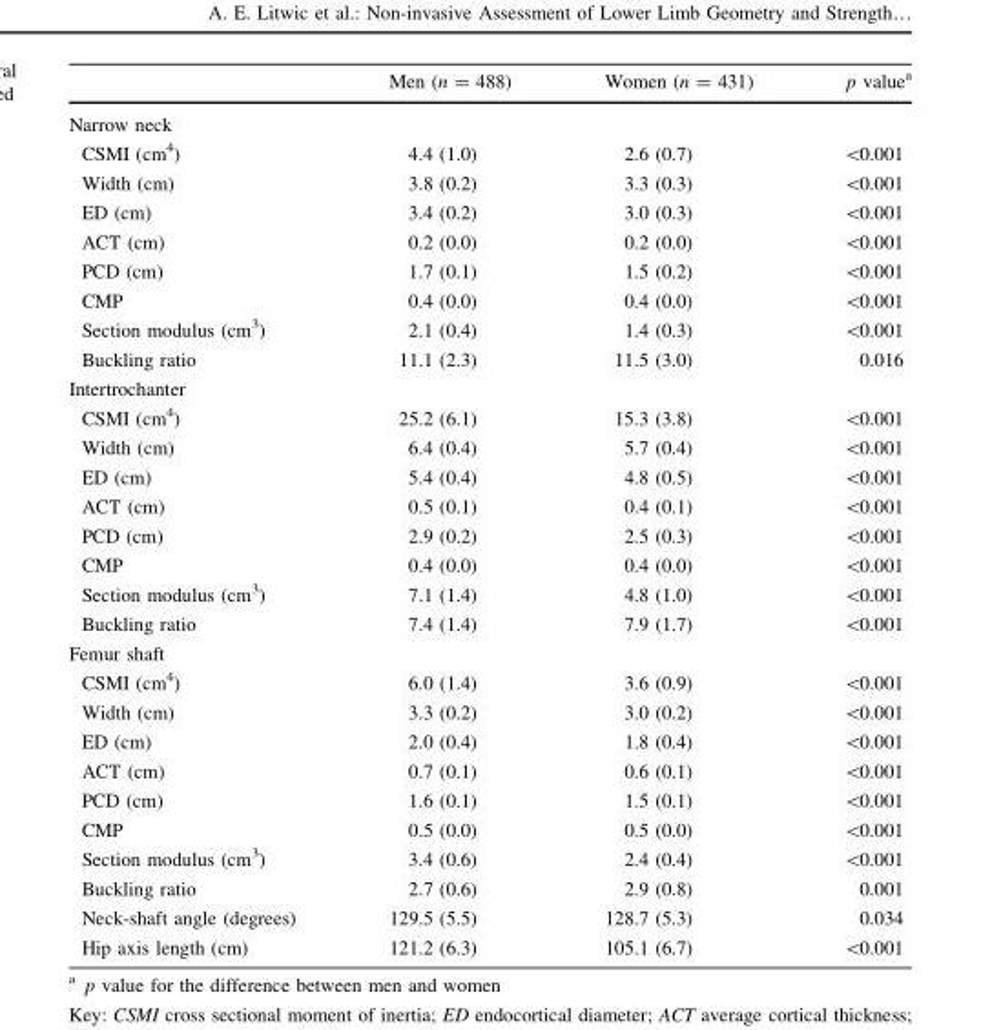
<table><thead><tr><td></td><td>Men (n = 488)</td><td>Women (n = 431)</td><td>p value<sup>a</sup></td></tr></thead><tbody><tr><td colspan="4">Narrow neck</td></tr><tr><td>CSMI (cm<sup>4</sup>)</td><td>4.4 (1.0)</td><td>2.6 (0.7)</td><td>&lt;0.001</td></tr><tr><td>Width (cm)</td><td>3.8 (0.2)</td><td>3.3 (0.3)</td><td>&lt;0.001</td></tr><tr><td>ED (cm)</td><td>3.4 (0.2)</td><td>3.0 (0.3)</td><td>&lt;0.001</td></tr><tr><td>ACT (cm)</td><td>0.2 (0.0)</td><td>0.2 (0.0)</td><td>&lt;0.001</td></tr><tr><td>PCD (cm)</td><td>1.7 (0.1)</td><td>1.5 (0.2)</td><td>&lt;0.001</td></tr><tr><td>CMP</td><td>0.4 (0.0)</td><td>0.4 (0.0)</td><td>&lt;0.001</td></tr><tr><td>Section modulus (cm<sup>3</sup>)</td><td>2.1 (0.4)</td><td>1.4 (0.3)</td><td>&lt;0.001</td></tr><tr><td>Buckling ratio</td><td>11.1 (2.3)</td><td>11.5 (3.0)</td><td>0.016</td></tr><tr><td colspan="4">Intertrochanter</td></tr><tr><td>CSMI (cm<sup>4</sup>)</td><td>25.2 (6.1)</td><td>15.3 (3.8)</td><td>&lt;0.001</td></tr><tr><td>Width (cm)</td><td>6.4 (0.4)</td><td>5.7 (0.4)</td><td>&lt;0.001</td></tr><tr><td>ED (cm)</td><td>5.4 (0.4)</td><td>4.8 (0.5)</td><td>&lt;0.001</td></tr><tr><td>ACT (cm)</td><td>0.5 (0.1)</td><td>0.4 (0.1)</td><td>&lt;0.001</td></tr><tr><td>PCD (cm)</td><td>2.9 (0.2)</td><td>2.5 (0.3)</td><td>&lt;0.001</td></tr><tr><td>CMP</td><td>0.4 (0.0)</td><td>0.4 (0.0)</td><td>&lt;0.001</td></tr><tr><td>Section modulus (cm<sup>3</sup>)</td><td>7.1 (1.4)</td><td>4.8 (1.0)</td><td>&lt;0.001</td></tr><tr><td>Buckling ratio</td><td>7.4 (1.4)</td><td>7.9 (1.7)</td><td>&lt;0.001</td></tr><tr><td colspan="4">Femur shaft</td></tr><tr><td>CSMI (cm<sup>4</sup>)</td><td>6.0 (1.4)</td><td>3.6 (0.9)</td><td>&lt;0.001</td></tr><tr><td>Width (cm)</td><td>3.3 (0.2)</td><td>3.0 (0.2)</td><td>&lt;0.001</td></tr><tr><td>ED (cm)</td><td>2.0 (0.4)</td><td>1.8 (0.4)</td><td>&lt;0.001</td></tr><tr><td>ACT (cm)</td><td>0.7 (0.1)</td><td>0.6 (0.1)</td><td>&lt;0.001</td></tr><tr><td>PCD (cm)</td><td>1.6 (0.1)</td><td>1.5 (0.1)</td><td>&lt;0.001</td></tr><tr><td>CMP</td><td>0.5 (0.0)</td><td>0.5 (0.0)</td><td>&lt;0.001</td></tr><tr><td>Section modulus (cm<sup>3</sup>)</td><td>3.4 (0.6)</td><td>2.4 (0.4)</td><td>&lt;0.001</td></tr><tr><td>Buckling ratio</td><td>2.7 (0.6)</td><td>2.9 (0.8)</td><td>0.001</td></tr><tr><td>Neck-shaft angle (degrees)</td><td>129.5 (5.5)</td><td>128.7 (5.3)</td><td>0.034</td></tr><tr><td>Hip axis length (cm)</td><td>121.2 (6.3)</td><td>105.1 (6.7)</td><td>&lt;0.001</td></tr></tbody></table>